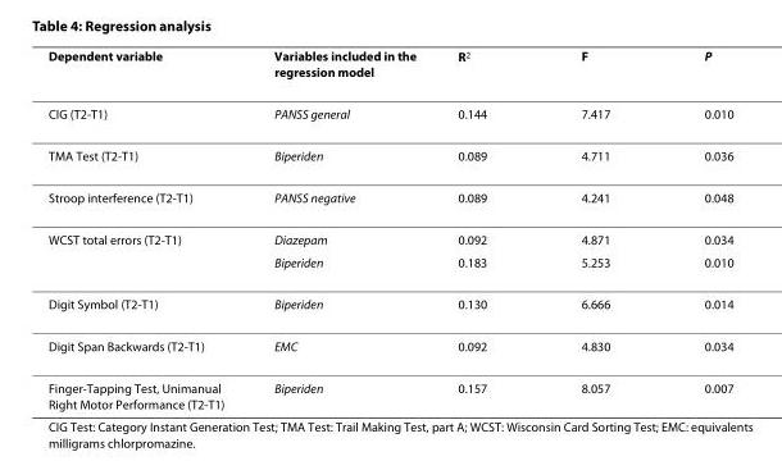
<table><thead><tr><td>Dependent variable</td><td>Variables included in the regression model</td><td>R<sup>2</sup></td><td>F</td><td>P</td></tr></thead><tbody><tr><td>CIG (T2-T1)</td><td>PANSS general</td><td>0.144</td><td>7.417</td><td>0.010</td></tr><tr><td>TMA Test (T2-T1)</td><td>Biperiden</td><td>0.089</td><td>4.711</td><td>0.036</td></tr><tr><td>Stroop interference (T2-T1)</td><td>PANSS negative</td><td>0.089</td><td>4.241</td><td>0.048</td></tr><tr><td rowspan="2">WCST total errors (T2-T1)</td><td>Diazepam</td><td>0.092</td><td>4.871</td><td>0.034</td></tr><tr><td>Biperiden</td><td>0.183</td><td>5.253</td><td>0.010</td></tr><tr><td>Digit Symbol (T2-T1)</td><td>Biperiden</td><td>0.130</td><td>6.666</td><td>0.014</td></tr><tr><td>Digit Span Backwards (T2-T1)</td><td>EMC</td><td>0.092</td><td>4.830</td><td>0.034</td></tr><tr><td>Finger-Tapping Test, Unimanual Right Motor Performance (T2-T1)</td><td>Biperiden</td><td>0.157</td><td>8.057</td><td>0.007</td></tr></tbody></table>